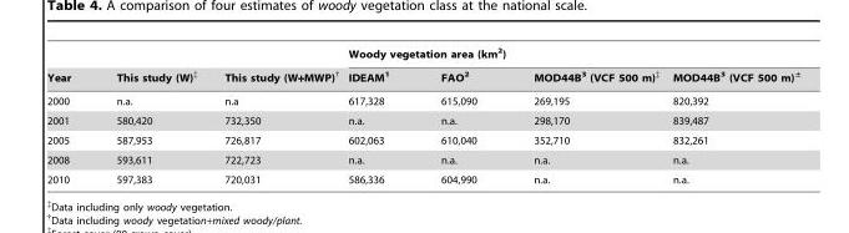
<table><thead><tr><td rowspan="2">Year</td><td rowspan="2">This study (W)‡</td><td rowspan="2">This study (W+MWP)†</td><td colspan="4">Woody vegetation area (km<sup>2</sup>)</td></tr><tr><td>IDEAM<sup>1</sup></td><td>FAO<sup>2</sup></td><td>MOD44B<sup>3</sup> (VCF 500 m)<sup>‡</sup></td><td>MOD44B<sup>3</sup> (VCF 500 m)±</td></tr></thead><tbody><tr><td>2000</td><td>n.a.</td><td>n.a</td><td>617,328</td><td>615,090</td><td>269,195</td><td>820,392</td></tr><tr><td>2001</td><td>580,420</td><td>732,350</td><td>n.a.</td><td>n.a.</td><td>298,170</td><td>839,487</td></tr><tr><td>2005</td><td>587,953</td><td>726,817</td><td>602,063</td><td>610,040</td><td>352,710</td><td>832,261</td></tr><tr><td>2008</td><td>593,611</td><td>722,723</td><td>n.a.</td><td>n.a.</td><td>n.a.</td><td>n.a.</td></tr><tr><td>2010</td><td>597,383</td><td>720,031</td><td>586,336</td><td>604,990</td><td>n.a.</td><td>n.a.</td></tr></tbody></table>